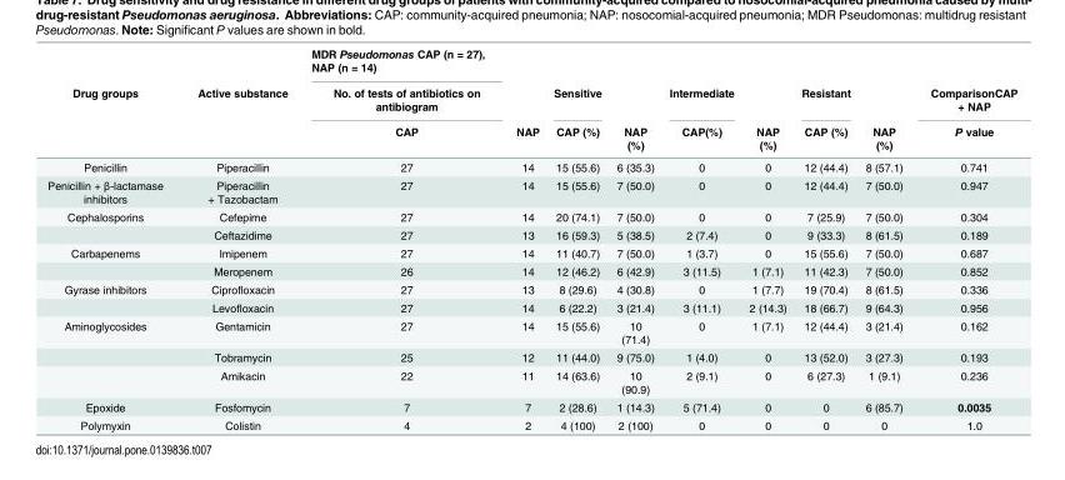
<table><thead><tr><td rowspan="3">Drug groups</td><td rowspan="3">Active substance</td><td rowspan="3">MDR Pseudomonas CAP (n = 27), NAP (n = 14) No. of tests of antibiotics on antibiogram CAP</td><td rowspan="3">NAP</td><td rowspan="3">Sensitive CAP (%)</td><td rowspan="3">NAP (%)</td><td rowspan="3">Intermediate CAP(%)</td><td rowspan="3">NAP (%)</td><td rowspan="3">Resistant CAP (%)</td><td rowspan="3">NAP (%)</td><td rowspan="3">ComparisonCAP + NAP P value</td></tr><tr></tr><tr></tr></thead><tbody><tr><td>Penicillin</td><td>Piperacillin</td><td>27</td><td>14</td><td>15 (55.6)</td><td>6 (35.3)</td><td>0</td><td>0</td><td>12 (44.4)</td><td>8 (57.1)</td><td>0.741</td></tr><tr><td>Penicillin + β-lactamase inhibitors</td><td>Piperacillin + Tazobactam</td><td>27</td><td>14</td><td>15 (55.6)</td><td>7 (50.0)</td><td>0</td><td>0</td><td>12 (44.4)</td><td>7 (50.0)</td><td>0.947</td></tr><tr><td rowspan="2">Cephalosporins</td><td>Cefepime</td><td>27</td><td>14</td><td>20 (74.1)</td><td>7 (50.0)</td><td>0</td><td>0</td><td>7 (25.9)</td><td>7 (50.0)</td><td>0.304</td></tr><tr><td>Ceftazidime</td><td>27</td><td>13</td><td>16 (59.3)</td><td>5 (38.5)</td><td>2 (7.4)</td><td>0</td><td>9 (33.3)</td><td>8 (61.5)</td><td>0.189</td></tr><tr><td rowspan="2">Carbapenems</td><td>Imipenem</td><td>27</td><td>14</td><td>11 (40.7)</td><td>7 (50.0)</td><td>1 (3.7)</td><td>0</td><td>15 (55.6)</td><td>7 (50.0)</td><td>0.687</td></tr><tr><td>Meropenem</td><td>26</td><td>14</td><td>12 (46.2)</td><td>6 (42.9)</td><td>3 (11.5)</td><td>1 (7.1)</td><td>11 (42.3)</td><td>7 (50.0)</td><td>0.852</td></tr><tr><td rowspan="2">Gyrase inhibitors</td><td>Ciprofloxacin</td><td>27</td><td>13</td><td>8 (29.6)</td><td>4 (30.8)</td><td>0</td><td>1 (7.7)</td><td>19 (70.4)</td><td>8 (61.5)</td><td>0.336</td></tr><tr><td>Levofloxacin</td><td>27</td><td>14</td><td>6 (22.2)</td><td>3 (21.4)</td><td>3 (11.1)</td><td>2 (14.3)</td><td>18 (66.7)</td><td>9 (64.3)</td><td>0.956</td></tr><tr><td rowspan="3">Aminoglycosides</td><td>Gentamicin</td><td>27</td><td>14</td><td>15 (55.6)</td><td>10 (71.4)</td><td>0</td><td>1 (7.1)</td><td>12 (44.4)</td><td>3 (21.4)</td><td>0.162</td></tr><tr><td>Tobramycin</td><td>25</td><td>12</td><td>11 (44.0)</td><td>9 (75.0)</td><td>1 (4.0)</td><td>0</td><td>13 (52.0)</td><td>3 (27.3)</td><td>0.193</td></tr><tr><td>Amikacin</td><td>22</td><td>11</td><td>14 (63.6)</td><td>10 (90.9)</td><td>2 (9.1)</td><td>0</td><td>6 (27.3)</td><td>1 (9.1)</td><td>0.236</td></tr><tr><td>Epoxide</td><td>Fosfomycin</td><td>7</td><td>7</td><td>2 (28.6)</td><td>1 (14.3)</td><td>5 (71.4)</td><td>0</td><td>0</td><td>6 (85.7)</td><td>0.0035</td></tr><tr><td>Polymyxin</td><td>Colistin</td><td>4</td><td>2</td><td>4 (100)</td><td>2 (100)</td><td>0</td><td>0</td><td>0</td><td>0</td><td>1.0</td></tr></tbody></table>